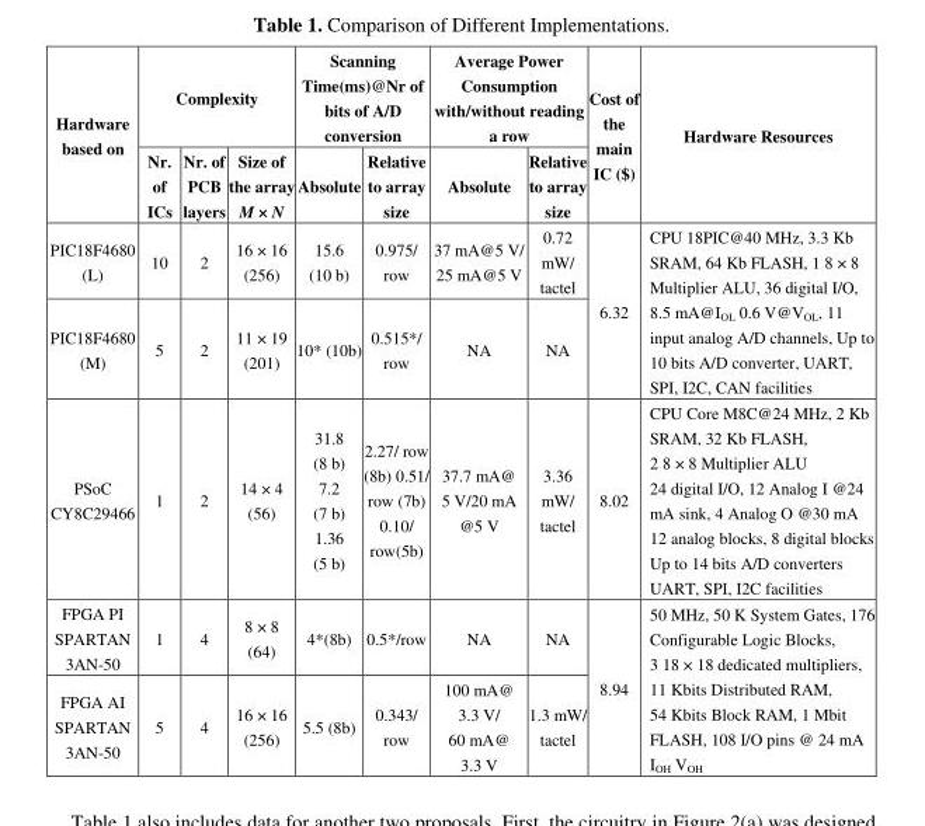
<table><thead><tr><td rowspan="2">Hardware based on</td><td colspan="3">Complexity</td><td colspan="2">Scanning Time(ms)@Nr of bits of A/D conversion</td><td colspan="2">Average Power Consumption with/without reading a row</td><td rowspan="2">Cost of the main IC ($)</td><td rowspan="2">Hardware Resources</td></tr><tr><td>Nr. of ICs</td><td>Nr. of PCB layers</td><td>Size of the array M × N</td><td>Absolute</td><td>Relative to array size</td><td>Absolute</td><td>Relative to array size</td></tr></thead><tbody><tr><td>PIC18F4680 (L)</td><td>10</td><td>2</td><td>16 × 16 (256)</td><td>15.6 (10 b)</td><td>0.975/ row</td><td>37 mA@5 V/ 25 mA@5 V</td><td>0.72 mW/ tactel</td><td rowspan="2">6.32</td><td rowspan="2">CPU 18PIC@40 MHz, 3.3 Kb SRAM, 64 Kb FLASH, 1 8 × 8 Multiplier ALU, 36 digital I/O, 8.5 mA@I<sub>OL</sub> 0.6 V@V<sub>OL</sub>, 11 input analog A/D channels, Up to 10 bits A/D converter, UART, SPI, I2C, CAN facilities</td></tr><tr><td>PIC18F4680 (M)</td><td>5</td><td>2</td><td>11 × 19 (201)</td><td>10* (10b)</td><td>0.515*/ row</td><td>NA</td><td>NA</td></tr><tr><td>PSoC CY8C29466</td><td>1</td><td>2</td><td>14 × 4 (56)</td><td>31.8 (8 b) 7.2 (7 b) 1.36 (5 b)</td><td>2.27/ row (8b) 0.51/ row (7b) 0.10/ row(5b)</td><td>37.7 mA@ 5 V/20 mA @5 V</td><td>3.36 mW/ tactel</td><td>8.02</td><td>CPU Core M8C@24 MHz, 2 Kb SRAM, 32 Kb FLASH, 2 8 × 8 Multiplier ALU 24 digital I/O, 12 Analog I @24 mA sink, 4 Analog O @30 mA 12 analog blocks, 8 digital blocks Up to 14 bits A/D converters UART, SPI, I2C facilities</td></tr><tr><td>FPGA PI SPARTAN 3AN-50</td><td>1</td><td>4</td><td>8 × 8 (64)</td><td>4*(8b)</td><td>0.5*/row</td><td>NA</td><td>NA</td><td rowspan="2">8.94</td><td rowspan="2">50 MHz, 50 K System Gates, 176 Configurable Logic Blocks, 3 18 × 18 dedicated multipliers, 11 Kbits Distributed RAM, 54 Kbits Block RAM, 1 Mbit FLASH, 108 I/O pins @ 24 mA I<sub>OH</sub> V<sub>OH</sub></td></tr><tr><td>FPGA AI SPARTAN 3AN-50</td><td>5</td><td>4</td><td>16 × 16 (256)</td><td>5.5 (8b)</td><td>0.343/ row</td><td>100 mA@ 3.3 V/ 60 mA@ 3.3 V</td><td>1.3 mW/ tactel</td></tr></tbody></table>